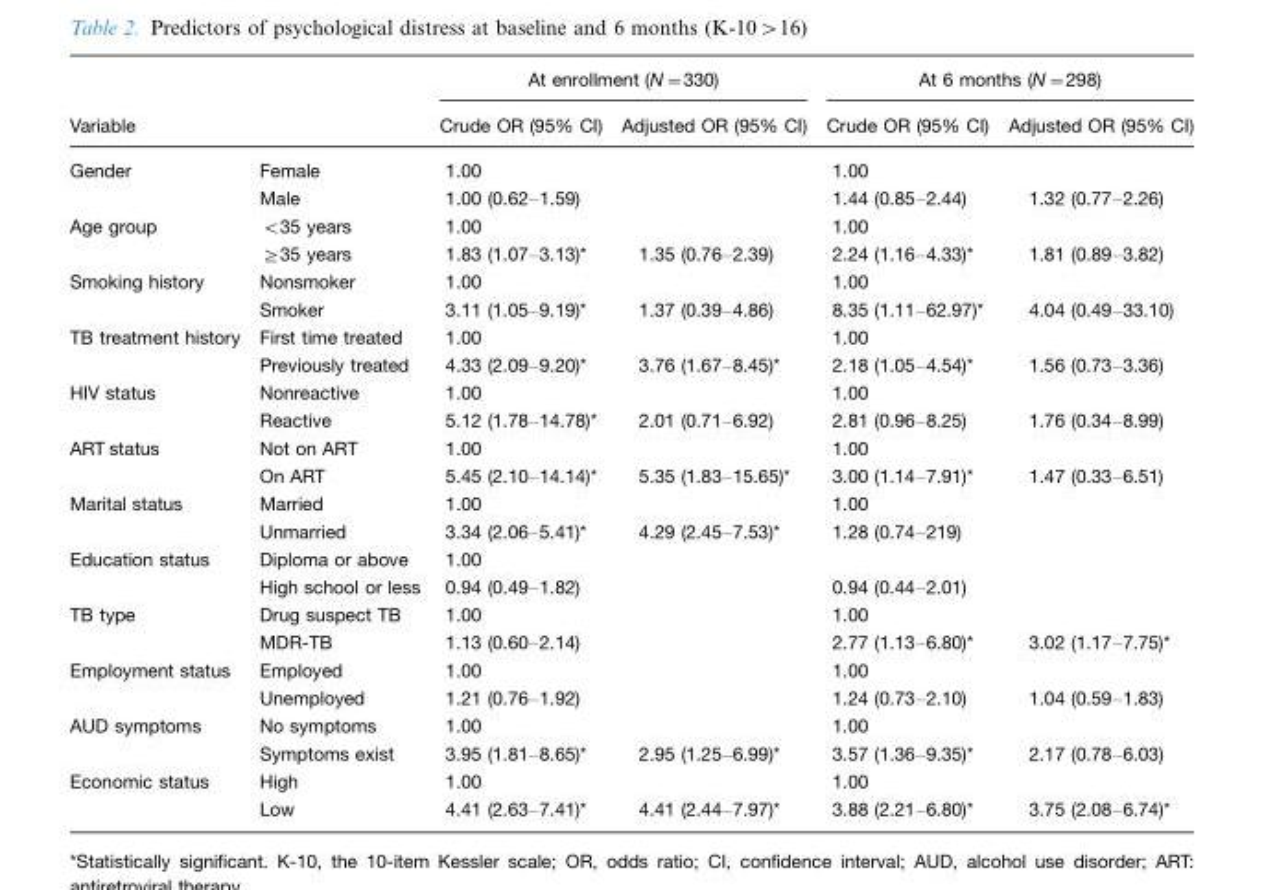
<table><thead><tr><td rowspan="2">Variable</td><td rowspan="2"></td><td colspan="2">At enrollment (N=330)</td><td colspan="2">At 6 months (N=298)</td></tr><tr><td>Crude OR (95% CI)</td><td>Adjusted OR (95% CI)</td><td>Crude OR (95% CI)</td><td>Adjusted OR (95% CI)</td></tr></thead><tbody><tr><td rowspan="2">Gender</td><td>Female</td><td>1.00</td><td></td><td>1.00</td><td></td></tr><tr><td>Male</td><td>1.00 (0.62–1.59)</td><td></td><td>1.44 (0.85–2.44)</td><td>1.32 (0.77–2.26)</td></tr><tr><td rowspan="2">Age group</td><td>&lt;35 years</td><td>1.00</td><td></td><td>1.00</td><td></td></tr><tr><td>≥35 years</td><td>1.83 (1.07–3.13)*</td><td>1.35 (0.76–2.39)</td><td>2.24 (1.16–4.33)*</td><td>1.81 (0.89–3.82)</td></tr><tr><td rowspan="2">Smoking history</td><td>Nonsmoker</td><td>1.00</td><td></td><td>1.00</td><td></td></tr><tr><td>Smoker</td><td>3.11 (1.05–9.19)*</td><td>1.37 (0.39–4.86)</td><td>8.35 (1.11–62.97)*</td><td>4.04 (0.49–33.10)</td></tr><tr><td rowspan="2">TB treatment history</td><td>First time treated</td><td>1.00</td><td></td><td>1.00</td><td></td></tr><tr><td>Previously treated</td><td>4.33 (2.09–9.20)*</td><td>3.76 (1.67–8.45)*</td><td>2.18 (1.05–4.54)*</td><td>1.56 (0.73–3.36)</td></tr><tr><td rowspan="2">HIV status</td><td>Nonreactive</td><td>1.00</td><td></td><td>1.00</td><td></td></tr><tr><td>Reactive</td><td>5.12 (1.78–14.78)*</td><td>2.01 (0.71–6.92)</td><td>2.81 (0.96–8.25)</td><td>1.76 (0.34–8.99)</td></tr><tr><td rowspan="2">ART status</td><td>Not on ART</td><td>1.00</td><td></td><td>1.00</td><td></td></tr><tr><td>On ART</td><td>5.45 (2.10–14.14)*</td><td>5.35 (1.83–15.65)*</td><td>3.00 (1.14–7.91)*</td><td>1.47 (0.33–6.51)</td></tr><tr><td rowspan="2">Marital status</td><td>Married</td><td>1.00</td><td></td><td>1.00</td><td></td></tr><tr><td>Unmarried</td><td>3.34 (2.06–5.41)*</td><td>4.29 (2.45–7.53)*</td><td>1.28 (0.74–219)</td><td></td></tr><tr><td rowspan="2">Education status</td><td>Diploma or above</td><td>1.00</td><td></td><td></td><td></td></tr><tr><td>High school or less</td><td>0.94 (0.49–1.82)</td><td></td><td>0.94 (0.44–2.01)</td><td></td></tr><tr><td rowspan="2">TB type</td><td>Drug suspect TB</td><td>1.00</td><td></td><td>1.00</td><td></td></tr><tr><td>MDR-TB</td><td>1.13 (0.60–2.14)</td><td></td><td>2.77 (1.13–6.80)*</td><td>3.02 (1.17–7.75)*</td></tr><tr><td rowspan="2">Employment status</td><td>Employed</td><td>1.00</td><td></td><td>1.00</td><td></td></tr><tr><td>Unemployed</td><td>1.21 (0.76–1.92)</td><td></td><td>1.24 (0.73–2.10)</td><td>1.04 (0.59–1.83)</td></tr><tr><td rowspan="2">AUD symptoms</td><td>No symptoms</td><td>1.00</td><td></td><td>1.00</td><td></td></tr><tr><td>Symptoms exist</td><td>3.95 (1.81–8.65)*</td><td>2.95 (1.25–6.99)*</td><td>3.57 (1.36–9.35)*</td><td>2.17 (0.78–6.03)</td></tr><tr><td rowspan="2">Economic status</td><td>High</td><td>1.00</td><td></td><td>1.00</td><td></td></tr><tr><td>Low</td><td>4.41 (2.63–7.41)*</td><td>4.41 (2.44–7.97)*</td><td>3.88 (2.21–6.80)*</td><td>3.75 (2.08–6.74)*</td></tr></tbody></table>